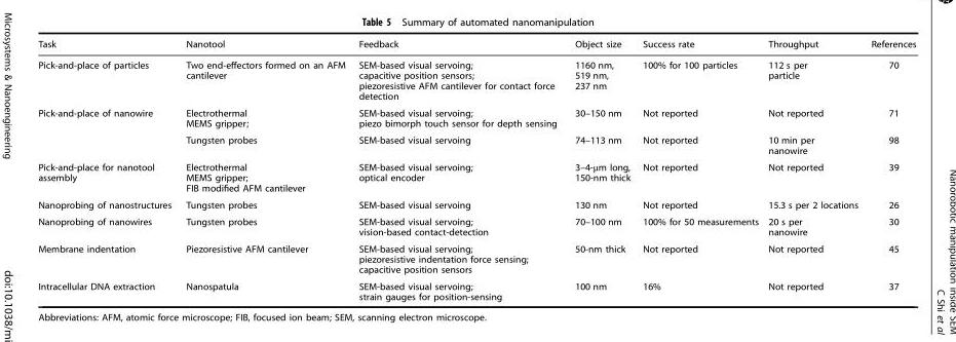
<table><thead><tr><td>Task</td><td>Nanotool</td><td>Feedback</td><td>Object size</td><td>Success rate</td><td>Throughput</td><td>References</td></tr></thead><tbody><tr><td>Pick-and-place of particles</td><td>Two end-effectors formed on an AFM cantilever</td><td>SEM-based visual servoing; capacitive position sensors; piezoresistive AFM cantilever for contact force detection</td><td>1160 nm, 519 nm, 237 nm</td><td>100% for 100 particles</td><td>112 s per particle</td><td>70</td></tr><tr><td rowspan="2">Pick-and-place of nanowire</td><td>Electrothermal MEMS gripper;</td><td>SEM-based visual servoing; piezo bimorph touch sensor for depth sensing</td><td>30–150 nm</td><td>Not reported</td><td>Not reported</td><td>71</td></tr><tr><td>Tungsten probes</td><td>SEM-based visual servoing</td><td>74–113 nm</td><td>Not reported</td><td>10 min per nanowire</td><td>98</td></tr><tr><td>Pick-and-place for nanotool assembly</td><td>Electrothermal MEMS gripper; FIB modified AFM cantilever</td><td>SEM-based visual servoing; optical encoder</td><td>3–4-μm long, 150-nm thick</td><td>Not reported</td><td>Not reported</td><td>39</td></tr><tr><td>Nanoprobing of nanostructures</td><td>Tungsten probes</td><td>SEM-based visual servoing</td><td>130 nm</td><td>Not reported</td><td>15.3 s per 2 locations</td><td>26</td></tr><tr><td>Nanoprobing of nanowires</td><td>Tungsten probes</td><td>SEM-based visual servoing; vision-based contact-detection</td><td>70–100 nm</td><td>100% for 50 measurements</td><td>20 s per nanowire</td><td>30</td></tr><tr><td>Membrane indentation</td><td>Piezoresistive AFM cantilever</td><td>SEM-based visual servoing; piezoresistive indentation force sensing; capacitive position sensors</td><td>50-nm thick</td><td>Not reported</td><td>Not reported</td><td>45</td></tr><tr><td>Intracellular DNA extraction</td><td>Nanospatula</td><td>SEM-based visual servoing; strain gauges for position-sensing</td><td>100 nm</td><td>16%</td><td>Not reported</td><td>37</td></tr></tbody></table>